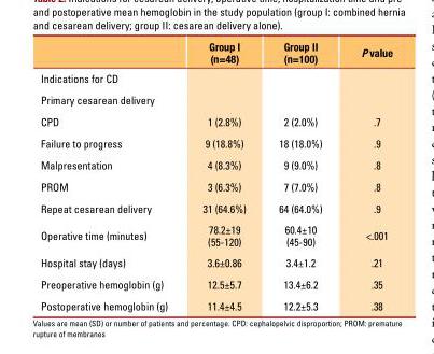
<table><thead><tr><td></td><td>Group I (n=48)</td><td>Group II (n=100)</td><td>P value</td></tr></thead><tbody><tr><td colspan="4">indications for cD</td></tr><tr><td colspan="4">Primary cesarean delivery</td></tr><tr><td>cPD</td><td>1 (2.8%)</td><td>2 (2.0%)</td><td>.7</td></tr><tr><td>Failure to progress</td><td>9 (18.8%)</td><td>18 (18.0%)</td><td>.9</td></tr><tr><td>Malpresentation</td><td>4 (8.3%)</td><td>9 (9.0%)</td><td>.8</td></tr><tr><td>PROM</td><td>3 (6.3%)</td><td>7 (7.0%)</td><td>.8</td></tr><tr><td>Repeat cesarean delivery</td><td>31 (64.6%)</td><td>64 (64.0%)</td><td>.9</td></tr><tr><td>Operative time (minutes)</td><td>78.2±19 (55-120)</td><td>60.4±10 (45-90)</td><td>&lt;.001</td></tr><tr><td>hospital stay (days)</td><td>3.6±0.86</td><td>3.4±1.2</td><td>.21</td></tr><tr><td>Preoperative hemoglobin (g)</td><td>12.5±5.7</td><td>13.4±6.2</td><td>.35</td></tr><tr><td>Postoperative hemoglobin (g)</td><td>11.4±4.5</td><td>12.2±5.3</td><td>.38</td></tr></tbody></table>